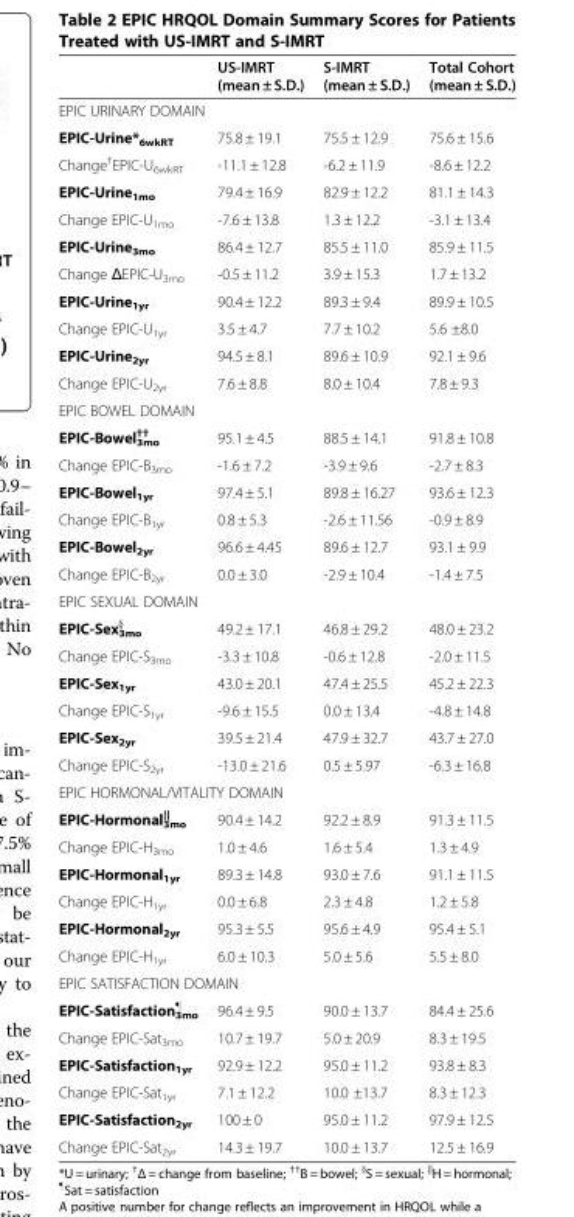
<table><thead><tr><td></td><td>US-IMRT (mean ± S.D.)</td><td>S-IMRT (mean ± S.D.)</td><td>Total Cohort (mean ± S.D.)</td></tr></thead><tbody><tr><td colspan="4">EPIC URINARY DOMAIN</td></tr><tr><td>EPIC-Urine*<sub>6wkRT</sub></td><td>75.8 ± 19.1</td><td>75.5 ± 12.9</td><td>75.6 ± 15.6</td></tr><tr><td>Change<sup>†</sup>EPIC-U<sub>6wkRT</sub></td><td>-11.1 ± 12.8</td><td>-6.2 ± 11.9</td><td>-8.6 ± 12.2</td></tr><tr><td>EPIC-Urine<sub>1mo</sub></td><td>79.4 ± 16.9</td><td>82.9 ± 12.2</td><td>81.1 ± 14.3</td></tr><tr><td>Change EPIC-U<sub>1mo</sub></td><td>-7.6 ± 13.8</td><td>1.3 ± 12.2</td><td>-3.1 ± 13.4</td></tr><tr><td>EPIC-Urine<sub>3mo</sub></td><td>86.4 ± 12.7</td><td>85.5 ± 11.0</td><td>85.9 ± 11.5</td></tr><tr><td>Change ΔEPIC-U<sub>3mo</sub></td><td>-0.5 ± 11.2</td><td>3.9 ± 15.3</td><td>1.7 ± 13.2</td></tr><tr><td>EPIC-Urine<sub>1yr</sub></td><td>90.4 ± 12.2</td><td>89.3 ± 9.4</td><td>89.9 ± 10.5</td></tr><tr><td>Change EPIC-U<sub>1yr</sub></td><td>3.5 ± 4.7</td><td>7.7 ± 10.2</td><td>5.6 ±8.0</td></tr><tr><td>EPIC-Urine<sub>2yr</sub></td><td>94.5 ± 8.1</td><td>89.6 ± 10.9</td><td>92.1 ± 9.6</td></tr><tr><td>Change EPIC-U<sub>2yr</sub></td><td>7.6 ± 8.8</td><td>8.0 ± 10.4</td><td>7.8 ± 9.3</td></tr><tr><td colspan="4">EPIC BOWEL DOMAIN</td></tr><tr><td>EPIC-Bowel<sup>††</sup> <sub>3mo</sub></td><td>95.1 ± 4.5</td><td>88.5 ± 14.1</td><td>91.8 ± 10.8</td></tr><tr><td>Change EPIC-B<sub>3mo</sub></td><td>-1.6 ± 7.2</td><td>-3.9 ± 9.6</td><td>-2.7 ± 8.3</td></tr><tr><td>EPIC-Bowel<sub>1yr</sub></td><td>97.4 ± 5.1</td><td>89.8 ± 16.27</td><td>93.6 ± 12.3</td></tr><tr><td>Change EPIC-B<sub>1yr</sub></td><td>0.8 ± 5.3</td><td>-2.6 ± 11.56</td><td>-0.9 ± 8.9</td></tr><tr><td>EPIC-Bowel<sub>2yr</sub></td><td>96.6 ± 4.45</td><td>89.6 ± 12.7</td><td>93.1 ± 9.9</td></tr><tr><td>Change EPIC-B<sub>2yr</sub></td><td>0.0 ± 3.0</td><td>-2.9 ± 10.4</td><td>-1.4 ± 7.5</td></tr><tr><td colspan="4">EPIC SEXUAL DOMAIN</td></tr><tr><td>EPIC-Sex<sup>§</sup> <sub>3mo</sub></td><td>49.2 ± 17.1</td><td>46.8 ± 29.2</td><td>48.0 ± 23.2</td></tr><tr><td>Change EPIC-S<sub>3mo</sub></td><td>-3.3 ± 10.8</td><td>-0.6 ± 12.8</td><td>-2.0 ± 11.5</td></tr><tr><td>EPIC-Sex<sub>1yr</sub></td><td>43.0 ± 20.1</td><td>47.4 ± 25.5</td><td>45.2 ± 22.3</td></tr><tr><td>Change EPIC-S<sub>1yr</sub></td><td>-9.6 ± 15.5</td><td>0.0 ± 13.4</td><td>-4.8 ± 14.8</td></tr><tr><td>EPIC-Sex<sub>2yr</sub></td><td>39.5 ± 21.4</td><td>47.9 ± 32.7</td><td>43.7 ± 27.0</td></tr><tr><td>Change EPIC-S<sub>2yr</sub></td><td>-13.0 ± 21.6</td><td>0.5 ± 5.97</td><td>-6.3 ± 16.8</td></tr><tr><td colspan="4">EPIC HORMONAL/VITALITY DOMAIN</td></tr><tr><td>EPIC-Hormonal<sup>||</sup> <sub>3mo</sub></td><td>90.4 ± 14.2</td><td>92.2 ± 8.9</td><td>91.3 ± 11.5</td></tr><tr><td>Change EPIC-H<sub>3mo</sub></td><td>1.0 ± 4.6</td><td>1.6 ± 5.4</td><td>1.3 ± 4.9</td></tr><tr><td>EPIC-Hormonal<sub>1yr</sub></td><td>89.3 ± 14.8</td><td>93.0 ± 7.6</td><td>91.1 ± 11.5</td></tr><tr><td>Change EPIC-H<sub>1yr</sub></td><td>0.0 ± 6.8</td><td>2.3 ± 4.8</td><td>1.2 ± 5.8</td></tr><tr><td>EPIC-Hormonal<sub>2yr</sub></td><td>95.3 ± 5.5</td><td>95.6 ± 4.9</td><td>95.4 ± 5.1</td></tr><tr><td>Change EPIC-H<sub>1yr</sub></td><td>6.0 ± 10.3</td><td>5.0 ± 5.6</td><td>5.5 ± 8.0</td></tr><tr><td colspan="4">EPIC SATISFACTION DOMAIN</td></tr><tr><td>EPIC-Satisfaction<sup>¶</sup> <sub>3mo</sub></td><td>96.4 ± 9.5</td><td>90.0 ± 13.7</td><td>84.4 ± 25.6</td></tr><tr><td>Change EPIC-Sat<sub>3mo</sub></td><td>10.7 ± 19.7</td><td>5.0 ± 20.9</td><td>8.3 ± 19.5</td></tr><tr><td>EPIC-Satisfaction<sub>1yr</sub></td><td>92.9 ± 12.2</td><td>95.0 ± 11.2</td><td>93.8 ± 8.3</td></tr><tr><td>Change EPIC-Sat<sub>1yr</sub></td><td>7.1 ± 12.2</td><td>10.0 ±13.7</td><td>8.3 ± 12.3</td></tr><tr><td>EPIC-Satisfaction<sub>2yr</sub></td><td>100 ± 0</td><td>95.0 ± 11.2</td><td>97.9 ± 12.5</td></tr><tr><td>Change EPIC-Sat<sub>2yr</sub></td><td>14.3 ± 19.7</td><td>10.0 ± 13.7</td><td>12.5 ± 16.9</td></tr></tbody></table>